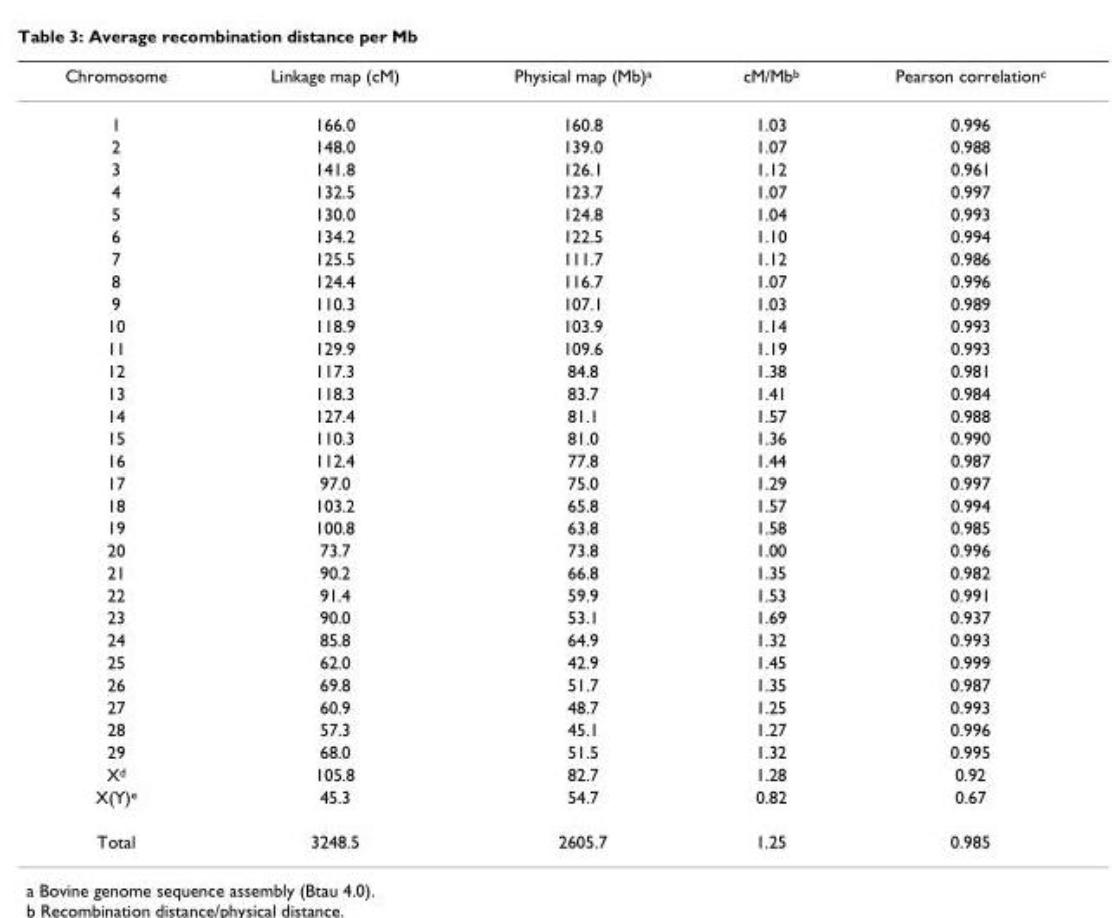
<table><thead><tr><td>Chromosome</td><td>Linkage map (cM)</td><td>Physical map (Mb)<sup>a</sup></td><td>cM/Mb<sup>b</sup></td><td>Pearson correlation<sup>c</sup></td></tr></thead><tbody><tr><td>1</td><td>166.0</td><td>160.8</td><td>1.03</td><td>0.996</td></tr><tr><td>2</td><td>148.0</td><td>139.0</td><td>1.07</td><td>0.988</td></tr><tr><td>3</td><td>141.8</td><td>126.1</td><td>1.12</td><td>0.961</td></tr><tr><td>4</td><td>132.5</td><td>123.7</td><td>1.07</td><td>0.997</td></tr><tr><td>5</td><td>130.0</td><td>124.8</td><td>1.04</td><td>0.993</td></tr><tr><td>6</td><td>134.2</td><td>122.5</td><td>1.10</td><td>0.994</td></tr><tr><td>7</td><td>125.5</td><td>111.7</td><td>1.12</td><td>0.986</td></tr><tr><td>8</td><td>124.4</td><td>116.7</td><td>1.07</td><td>0.996</td></tr><tr><td>9</td><td>110.3</td><td>107.1</td><td>1.03</td><td>0.989</td></tr><tr><td>10</td><td>118.9</td><td>103.9</td><td>1.14</td><td>0.993</td></tr><tr><td>11</td><td>129.9</td><td>109.6</td><td>1.19</td><td>0.993</td></tr><tr><td>12</td><td>117.3</td><td>84.8</td><td>1.38</td><td>0.981</td></tr><tr><td>13</td><td>118.3</td><td>83.7</td><td>1.41</td><td>0.984</td></tr><tr><td>14</td><td>127.4</td><td>81.1</td><td>1.57</td><td>0.988</td></tr><tr><td>15</td><td>110.3</td><td>81.0</td><td>1.36</td><td>0.990</td></tr><tr><td>16</td><td>112.4</td><td>77.8</td><td>1.44</td><td>0.987</td></tr><tr><td>17</td><td>97.0</td><td>75.0</td><td>1.29</td><td>0.997</td></tr><tr><td>18</td><td>103.2</td><td>65.8</td><td>1.57</td><td>0.994</td></tr><tr><td>19</td><td>100.8</td><td>63.8</td><td>1.58</td><td>0.985</td></tr><tr><td>20</td><td>73.7</td><td>73.8</td><td>1.00</td><td>0.996</td></tr><tr><td>21</td><td>90.2</td><td>66.8</td><td>1.35</td><td>0.982</td></tr><tr><td>22</td><td>91.4</td><td>59.9</td><td>1.53</td><td>0.991</td></tr><tr><td>23</td><td>90.0</td><td>53.1</td><td>1.69</td><td>0.937</td></tr><tr><td>24</td><td>85.8</td><td>64.9</td><td>1.32</td><td>0.993</td></tr><tr><td>25</td><td>62.0</td><td>42.9</td><td>1.45</td><td>0.999</td></tr><tr><td>26</td><td>69.8</td><td>51.7</td><td>1.35</td><td>0.987</td></tr><tr><td>27</td><td>60.9</td><td>48.7</td><td>1.25</td><td>0.993</td></tr><tr><td>28</td><td>57.3</td><td>45.1</td><td>1.27</td><td>0.996</td></tr><tr><td>29</td><td>68.0</td><td>51.5</td><td>1.32</td><td>0.995</td></tr><tr><td>X<sup>d</sup></td><td>105.8</td><td>82.7</td><td>1.28</td><td>0.92</td></tr><tr><td>X(Y)<sup>e</sup></td><td>45.3</td><td>54.7</td><td>0.82</td><td>0.67</td></tr><tr><td>Total</td><td>3248.5</td><td>2605.7</td><td>1.25</td><td>0.985</td></tr></tbody></table>